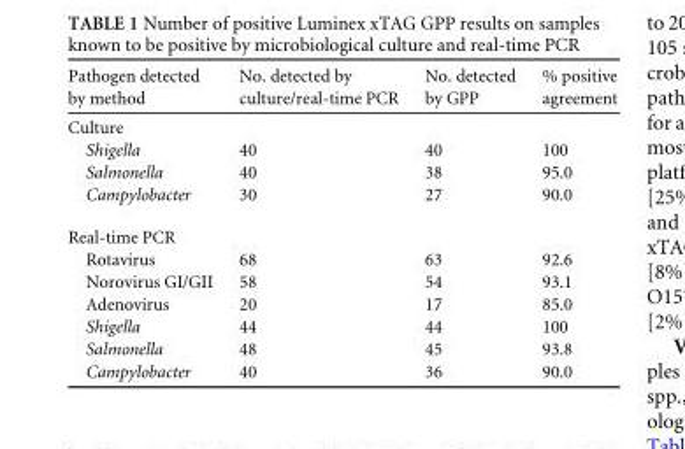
<table><thead><tr><td>Pathogen detected by method</td><td>No. detected by culture/real-time PCR</td><td>No. detected by GPP</td><td>% positive agreement</td></tr></thead><tbody><tr><td colspan="4">Culture</td></tr><tr><td>Shigella</td><td>40</td><td>40</td><td>100</td></tr><tr><td>Salmonella</td><td>40</td><td>38</td><td>95.0</td></tr><tr><td>Campylobacter</td><td>30</td><td>27</td><td>90.0</td></tr><tr><td colspan="4">Real-time PCR</td></tr><tr><td>Rotavirus</td><td>68</td><td>63</td><td>92.6</td></tr><tr><td>Norovirus GI/GII</td><td>58</td><td>54</td><td>93.1</td></tr><tr><td>Adenovirus</td><td>20</td><td>17</td><td>85.0</td></tr><tr><td>Shigella</td><td>44</td><td>44</td><td>100</td></tr><tr><td>Salmonella</td><td>48</td><td>45</td><td>93.8</td></tr><tr><td>Campylobacter</td><td>40</td><td>36</td><td>90.0</td></tr></tbody></table>